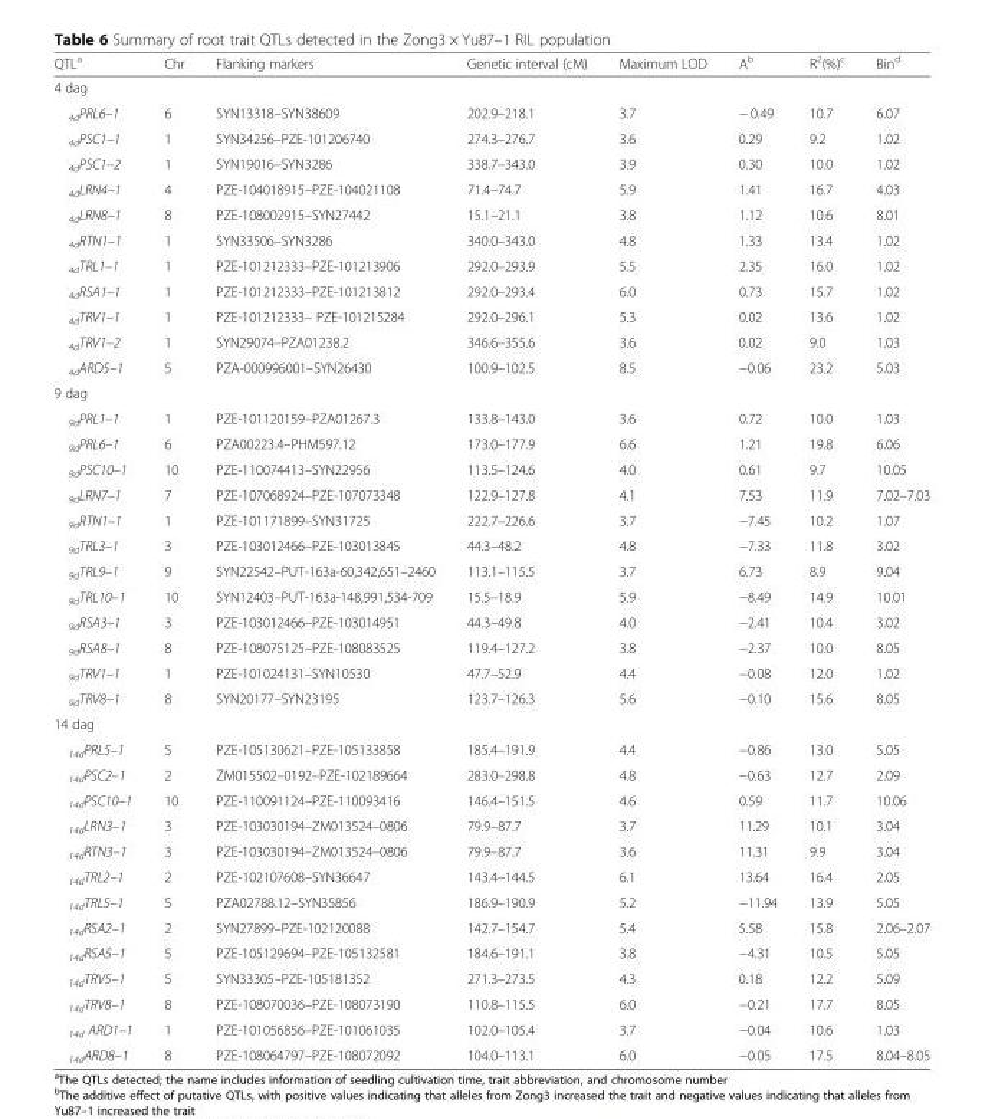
<table><thead><tr><td>QTL<sup>a</sup></td><td>Chr</td><td>Flanking markers</td><td>Genetic interval (cM)</td><td>Maximum LOD</td><td>A<sup>b</sup></td><td>R<sup>2</sup>(%)<sup>c</sup></td><td>Bin<sup>d</sup></td></tr></thead><tbody><tr><td colspan="8">4 dag</td></tr><tr><td><sub>4d</sub>PRL6–1</td><td>6</td><td>SYN13318–SYN38609</td><td>202.9–218.1</td><td>3.7</td><td>− 0.49</td><td>10.7</td><td>6.07</td></tr><tr><td><sub>4d</sub>PSC1–1</td><td>1</td><td>SYN34256–PZE-101206740</td><td>274.3–276.7</td><td>3.6</td><td>0.29</td><td>9.2</td><td>1.02</td></tr><tr><td><sub>4d</sub>PSC1–2</td><td>1</td><td>SYN19016–SYN3286</td><td>338.7–343.0</td><td>3.9</td><td>0.30</td><td>10.0</td><td>1.02</td></tr><tr><td><sub>4d</sub>LRN4–1</td><td>4</td><td>PZE-104018915–PZE-104021108</td><td>71.4–74.7</td><td>5.9</td><td>1.41</td><td>16.7</td><td>4.03</td></tr><tr><td><sub>4d</sub>LRN8–1</td><td>8</td><td>PZE-108002915–SYN27442</td><td>15.1–21.1</td><td>3.8</td><td>1.12</td><td>10.6</td><td>8.01</td></tr><tr><td><sub>4d</sub>RTN1–1</td><td>1</td><td>SYN33506–SYN3286</td><td>340.0–343.0</td><td>4.8</td><td>1.33</td><td>13.4</td><td>1.02</td></tr><tr><td><sub>4d</sub>TRL1–1</td><td>1</td><td>PZE-101212333–PZE-101213906</td><td>292.0–293.9</td><td>5.5</td><td>2.35</td><td>16.0</td><td>1.02</td></tr><tr><td><sub>4d</sub>RSA1–1</td><td>1</td><td>PZE-101212333–PZE-101213812</td><td>292.0–293.4</td><td>6.0</td><td>0.73</td><td>15.7</td><td>1.02</td></tr><tr><td><sub>4d</sub>TRV1–1</td><td>1</td><td>PZE-101212333– PZE-101215284</td><td>292.0–296.1</td><td>5.3</td><td>0.02</td><td>13.6</td><td>1.02</td></tr><tr><td><sub>4d</sub>TRV1–2</td><td>1</td><td>SYN29074–PZA01238.2</td><td>346.6–355.6</td><td>3.6</td><td>0.02</td><td>9.0</td><td>1.03</td></tr><tr><td><sub>4d</sub>ARD5–1</td><td>5</td><td>PZA-000996001–SYN26430</td><td>100.9–102.5</td><td>8.5</td><td>−0.06</td><td>23.2</td><td>5.03</td></tr><tr><td colspan="8">9 dag</td></tr><tr><td><sub>9d</sub>PRL1–1</td><td>1</td><td>PZE-101120159–PZA01267.3</td><td>133.8–143.0</td><td>3.6</td><td>0.72</td><td>10.0</td><td>1.03</td></tr><tr><td><sub>9d</sub>PRL6–1</td><td>6</td><td>PZA00223.4–PHM597.12</td><td>173.0–177.9</td><td>6.6</td><td>1.21</td><td>19.8</td><td>6.06</td></tr><tr><td><sub>9d</sub>PSC10–1</td><td>10</td><td>PZE-110074413–SYN22956</td><td>113.5–124.6</td><td>4.0</td><td>0.61</td><td>9.7</td><td>10.05</td></tr><tr><td><sub>9d</sub>LRN7–1</td><td>7</td><td>PZE-107068924–PZE-107073348</td><td>122.9–127.8</td><td>4.1</td><td>7.53</td><td>11.9</td><td>7.02–7.03</td></tr><tr><td><sub>9d</sub>RTN1–1</td><td>1</td><td>PZE-101171899–SYN31725</td><td>222.7–226.6</td><td>3.7</td><td>−7.45</td><td>10.2</td><td>1.07</td></tr><tr><td><sub>9d</sub>TRL3–1</td><td>3</td><td>PZE-103012466–PZE-103013845</td><td>44.3–48.2</td><td>4.8</td><td>−7.33</td><td>11.8</td><td>3.02</td></tr><tr><td><sub>9d</sub>TRL9–1</td><td>9</td><td>SYN22542–PUT-163a-60,342,651–2460</td><td>113.1–115.5</td><td>3.7</td><td>6.73</td><td>8.9</td><td>9.04</td></tr><tr><td><sub>9d</sub>TRL10–1</td><td>10</td><td>SYN12403–PUT-163a-148,991,534-709</td><td>15.5–18.9</td><td>5.9</td><td>−8.49</td><td>14.9</td><td>10.01</td></tr><tr><td><sub>9d</sub>RSA3–1</td><td>3</td><td>PZE-103012466–PZE-103014951</td><td>44.3–49.8</td><td>4.0</td><td>−2.41</td><td>10.4</td><td>3.02</td></tr><tr><td><sub>9d</sub>RSA8–1</td><td>8</td><td>PZE-108075125–PZE-108083525</td><td>119.4–127.2</td><td>3.8</td><td>−2.37</td><td>10.0</td><td>8.05</td></tr><tr><td><sub>9d</sub>TRV1–1</td><td>1</td><td>PZE-101024131–SYN10530</td><td>47.7–52.9</td><td>4.4</td><td>−0.08</td><td>12.0</td><td>1.02</td></tr><tr><td><sub>9d</sub>TRV8–1</td><td>8</td><td>SYN20177–SYN23195</td><td>123.7–126.3</td><td>5.6</td><td>−0.10</td><td>15.6</td><td>8.05</td></tr><tr><td colspan="8">14 dag</td></tr><tr><td><sub>14d</sub>PRL5–1</td><td>5</td><td>PZE-105130621–PZE-105133858</td><td>185.4–191.9</td><td>4.4</td><td>−0.86</td><td>13.0</td><td>5.05</td></tr><tr><td><sub>14d</sub>PSC2–1</td><td>2</td><td>ZM015502–0192–PZE-102189664</td><td>283.0–298.8</td><td>4.8</td><td>−0.63</td><td>12.7</td><td>2.09</td></tr><tr><td><sub>14d</sub>PSC10–1</td><td>10</td><td>PZE-110091124–PZE-110093416</td><td>146.4–151.5</td><td>4.6</td><td>0.59</td><td>11.7</td><td>10.06</td></tr><tr><td><sub>14d</sub>LRN3–1</td><td>3</td><td>PZE-103030194–ZM013524–0806</td><td>79.9–87.7</td><td>3.7</td><td>11.29</td><td>10.1</td><td>3.04</td></tr><tr><td><sub>14d</sub>RTN3–1</td><td>3</td><td>PZE-103030194–ZM013524–0806</td><td>79.9–87.7</td><td>3.6</td><td>11.31</td><td>9.9</td><td>3.04</td></tr><tr><td><sub>14d</sub>TRL2–1</td><td>2</td><td>PZE-102107608–SYN36647</td><td>143.4–144.5</td><td>6.1</td><td>13.64</td><td>16.4</td><td>2.05</td></tr><tr><td><sub>14d</sub>TRL5–1</td><td>5</td><td>PZA02788.12–SYN35856</td><td>186.9–190.9</td><td>5.2</td><td>−11.94</td><td>13.9</td><td>5.05</td></tr><tr><td><sub>14d</sub>RSA2–1</td><td>2</td><td>SYN27899–PZE-102120088</td><td>142.7–154.7</td><td>5.4</td><td>5.58</td><td>15.8</td><td>2.06–2.07</td></tr><tr><td><sub>14d</sub>RSA5–1</td><td>5</td><td>PZE-105129694–PZE-105132581</td><td>184.6–191.1</td><td>3.8</td><td>−4.31</td><td>10.5</td><td>5.05</td></tr><tr><td><sub>14d</sub>TRV5–1</td><td>5</td><td>SYN33305–PZE-105181352</td><td>271.3–273.5</td><td>4.3</td><td>0.18</td><td>12.2</td><td>5.09</td></tr><tr><td><sub>14d</sub>TRV8–1</td><td>8</td><td>PZE-108070036–PZE-108073190</td><td>110.8–115.5</td><td>6.0</td><td>−0.21</td><td>17.7</td><td>8.05</td></tr><tr><td><sub>14d</sub> ARD1–1</td><td>1</td><td>PZE-101056856–PZE-101061035</td><td>102.0–105.4</td><td>3.7</td><td>−0.04</td><td>10.6</td><td>1.03</td></tr><tr><td><sub>14d</sub>ARD8–1</td><td>8</td><td>PZE-108064797–PZE-108072092</td><td>104.0–113.1</td><td>6.0</td><td>−0.05</td><td>17.5</td><td>8.04–8.05</td></tr></tbody></table>